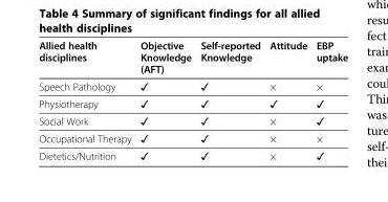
<table><thead><tr><td>Allied health disciplines</td><td>Objective Knowledge (AFT)</td><td>Self-reported Knowledge</td><td>Attitude</td><td>EBP uptake</td></tr></thead><tbody><tr><td>Speech Pathology</td><td>✓</td><td>✓</td><td>×</td><td>×</td></tr><tr><td>Physiotherapy</td><td>✓</td><td>✓</td><td>✓</td><td>✓</td></tr><tr><td>Social Work</td><td>✓</td><td>✓</td><td>×</td><td>✓</td></tr><tr><td>Occupational Therapy</td><td>✓</td><td>✓</td><td>×</td><td>×</td></tr><tr><td>Dietetics/Nutrition</td><td>✓</td><td>✓</td><td>×</td><td>✓</td></tr></tbody></table>